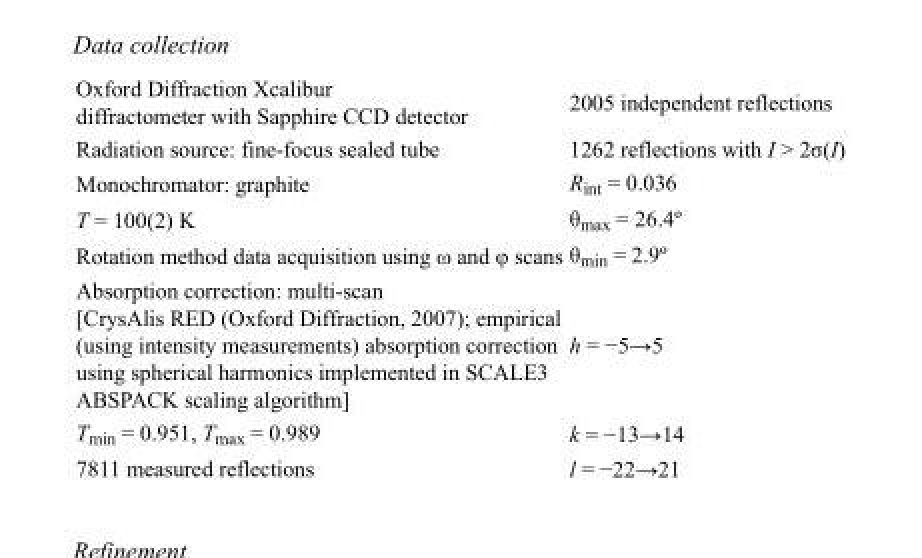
<table><tbody><tr><td>Oxford Diffraction Xcalibur diffractometer with Sapphire CCD detector</td><td>2005 independent reflections</td></tr><tr><td>Radiation source: fine-focus sealed tube</td><td>1262 reflections with I &gt; 2σ(I)</td></tr><tr><td>Monochromator: graphite</td><td>R<sub>int</sub> = 0.036</td></tr><tr><td>T = 100(2) K</td><td>θ<sub>max</sub> = 26.4º</td></tr><tr><td>Rotation method data acquisition using ω and φ scans</td><td>θ<sub>min</sub> = 2.9º</td></tr><tr><td>Absorption correction: multi-scan [CrysAlis RED (Oxford Diffraction, 2007); empirical (using intensity measurements) absorption correction using spherical harmonics implemented in SCALE3 ABSPACK scaling algorithm]</td><td>h = −5→5</td></tr><tr><td>T<sub>min</sub> = 0.951, T<sub>max</sub> = 0.989</td><td>k = −13→14</td></tr><tr><td>7811 measured reflections</td><td>l = −22→21</td></tr></tbody></table>